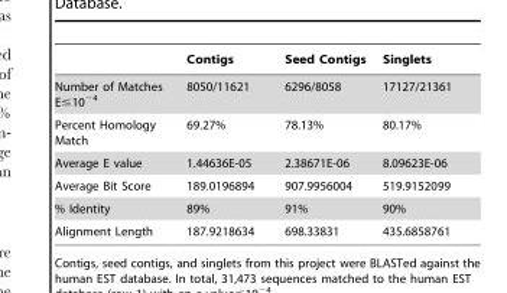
<table><thead><tr><td></td><td>Contigs</td><td>Seed Contigs</td><td>Singlets</td></tr></thead><tbody><tr><td>Number of Matches E≤10<sup>−4</sup></td><td>8050/11621</td><td>6296/8058</td><td>17127/21361</td></tr><tr><td>Percent Homology Match</td><td>69.27%</td><td>78.13%</td><td>80.17%</td></tr><tr><td>Average E value</td><td>1.44636E-05</td><td>2.38671E-06</td><td>8.09623E-06</td></tr><tr><td>Average Bit Score</td><td>189.0196894</td><td>907.9956004</td><td>519.9152099</td></tr><tr><td>% Identity</td><td>89%</td><td>91%</td><td>90%</td></tr><tr><td>Alignment Length</td><td>187.9218634</td><td>698.33831</td><td>435.6858761</td></tr></tbody></table>